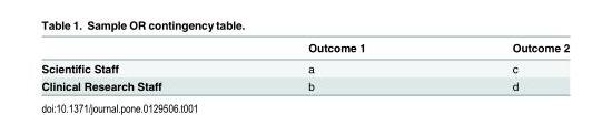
<table><thead><tr><td></td><td>Outcome 1</td><td>Outcome 2</td></tr></thead><tbody><tr><td>Scientific Staff</td><td>a</td><td>c</td></tr><tr><td>Clinical Research Staff</td><td>b</td><td>d</td></tr></tbody></table>